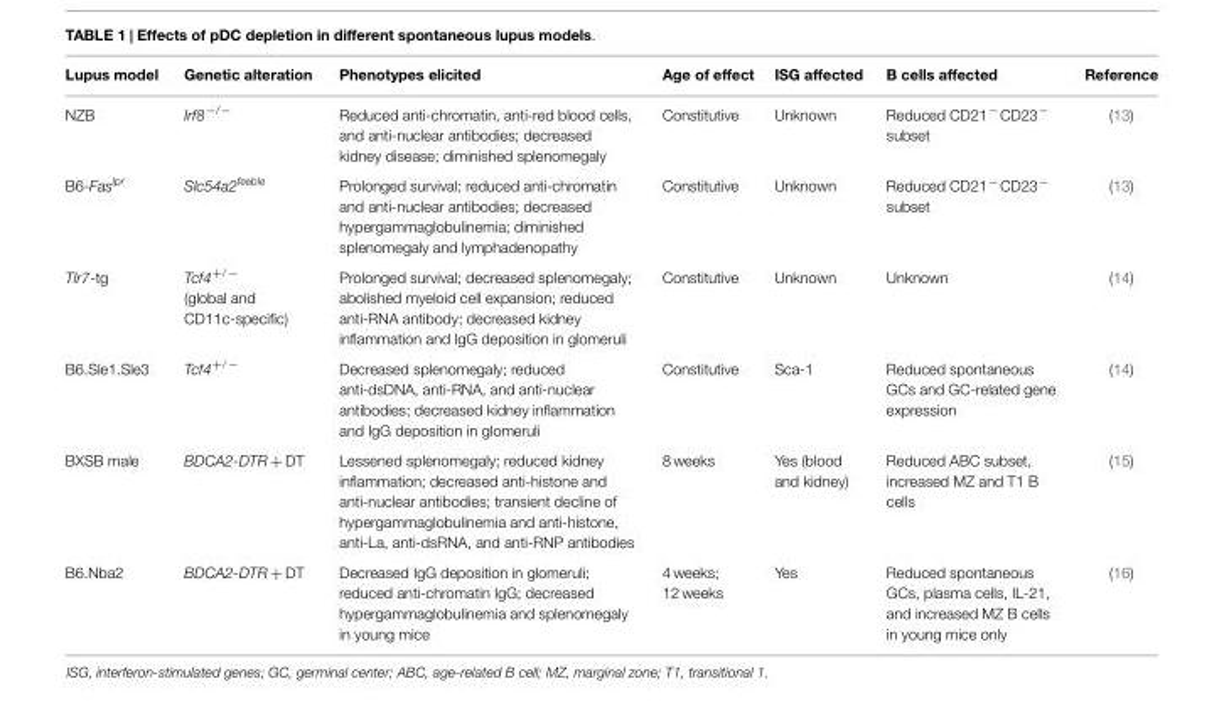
<table><thead><tr><td>Lupus model</td><td>Genetic alteration</td><td>Phenotypes elicited</td><td>Age of effect</td><td>ISG affected</td><td>B cells affected</td><td>Reference</td></tr></thead><tbody><tr><td>NZB</td><td>Irf8<sup>−/−</sup></td><td>Reduced anti-chromatin, anti-red blood cells, and anti-nuclear antibodies; decreased kidney disease; diminished splenomegaly</td><td>Constitutive</td><td>Unknown</td><td>Reduced CD21<sup>−</sup>CD23<sup>−</sup> subset</td><td>(13)</td></tr><tr><td>B6-Faslpr</td><td>Slc54a2feeble</td><td>Prolonged survival; reduced anti-chromatin and anti-nuclear antibodies; decreased hypergammaglobulinemia; diminished splenomegaly and lymphadenopathy</td><td>Constitutive</td><td>Unknown</td><td>Reduced CD21<sup>−</sup>CD23<sup>−</sup> subset</td><td>(13)</td></tr><tr><td>Tlr7-tg</td><td>Tcf4<sup>+/−</sup> (global and CD11c-specific)</td><td>Prolonged survival; decreased splenomegaly; abolished myeloid cell expansion; reduced anti-RNA antibody; decreased kidney inflammation and IgG deposition in glomeruli</td><td>Constitutive</td><td>Unknown</td><td>Unknown</td><td>(14)</td></tr><tr><td>B6.Sle1.Sle3</td><td>Tcf4<sup>+/−</sup></td><td>Decreased splenomegaly; reduced anti-dsDNA, anti-RNA, and anti-nuclear antibodies; decreased kidney inflammation and IgG deposition in glomeruli</td><td>Constitutive</td><td>Sca-1</td><td>Reduced spontaneous GCs and GC-related gene expression</td><td>(14)</td></tr><tr><td>BXSB male</td><td>BDCA2-DTR + DT</td><td>Lessened splenomegaly; reduced kidney inflammation; decreased anti-histone and anti-nuclear antibodies; transient decline of hypergammaglobulinemia and anti-histone, anti-La, anti-dsRNA, and anti-RNP antibodies</td><td>8 weeks</td><td>Yes (blood and kidney)</td><td>Reduced ABC subset, increased MZ and T1 B cells</td><td>(15)</td></tr><tr><td>B6.Nba2</td><td>BDCA2-DTR + DT</td><td>Decreased IgG deposition in glomeruli; reduced anti-chromatin IgG; decreased hypergammaglobulinemia and splenomegaly in young mice</td><td>4 weeks; 12 weeks</td><td>Yes</td><td>Reduced spontaneous GCs, plasma cells, IL-21, and increased MZ B cells in young mice only</td><td>(16)</td></tr></tbody></table>